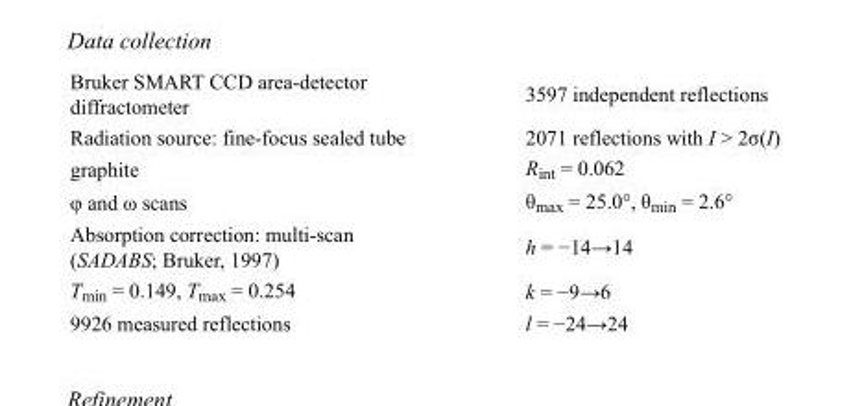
<table><tbody><tr><td>Bruker SMART CCD area-detector diffractometer</td><td>3597 independent reflections</td></tr><tr><td>Radiation source: fine-focus sealed tube</td><td>2071 reflections with I &gt; 2σ(I)</td></tr><tr><td>graphite</td><td>R<sub>int</sub> = 0.062</td></tr><tr><td>φ and ω scans</td><td>θ<sub>max</sub> = 25.0°, θ<sub>min</sub> = 2.6°</td></tr><tr><td>Absorption correction: multi-scan (SADABS; Bruker, 1997)</td><td>h = −14→14</td></tr><tr><td>T<sub>min</sub> = 0.149, T<sub>max</sub> = 0.254</td><td>k = −9→6</td></tr><tr><td>9926 measured reflections</td><td>l = −24→24</td></tr></tbody></table>